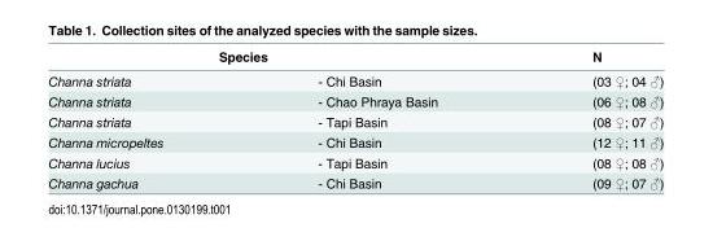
<table><thead><tr><td colspan="2">Species</td><td rowspan="2">N (03 ♀; 04 ♂)</td></tr><tr><td>Channa striata</td><td>- Chi Basin</td></tr></thead><tbody><tr><td>Channa striata</td><td>- Chao Phraya Basin</td><td>(06 ♀; 08 ♂)</td></tr><tr><td>Channa striata</td><td>- Tapi Basin</td><td>(08 ♀; 07 ♂)</td></tr><tr><td>Channa micropeltes</td><td>- Chi Basin</td><td>(12 ♀; 11 ♂)</td></tr><tr><td>Channa lucius</td><td>- Tapi Basin</td><td>(08 ♀; 08 ♂)</td></tr><tr><td>Channa gachua</td><td>- Chi Basin</td><td>(09 ♀; 07 ♂)</td></tr></tbody></table>